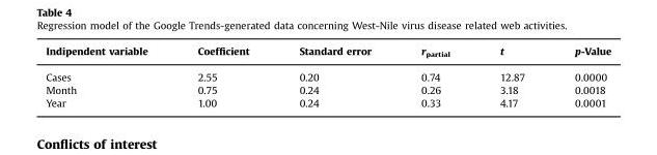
<table><thead><tr><td>Indipendent variable</td><td>Coefficient</td><td>Standard error</td><td>r<sub>partial</sub></td><td>t</td><td>p-Value</td></tr></thead><tbody><tr><td>Cases</td><td>2.55</td><td>0.20</td><td>0.74</td><td>12.87</td><td>0.0000</td></tr><tr><td>Month</td><td>0.75</td><td>0.24</td><td>0.26</td><td>3.18</td><td>0.0018</td></tr><tr><td>Year</td><td>1.00</td><td>0.24</td><td>0.33</td><td>4.17</td><td>0.0001</td></tr></tbody></table>